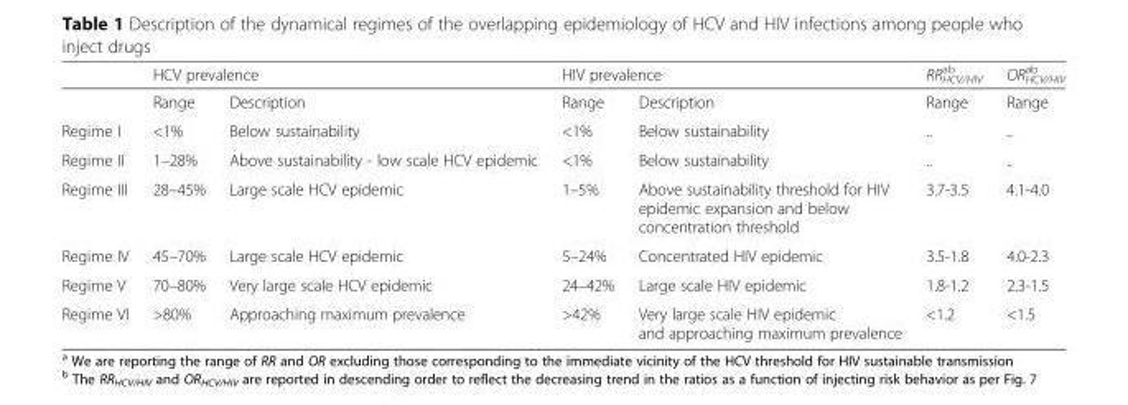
<table><thead><tr><td rowspan="2"></td><td colspan="2">HCV prevalence</td><td colspan="2">HIV prevalence</td><td rowspan="2">RR<sub>HCV/HIV</sub> <sup>ab</sup> Range</td><td rowspan="2">OR<sub>HCV/HIV</sub> <sup>ab</sup> Range</td></tr><tr><td>Range</td><td>Description</td><td>Range</td><td>Description</td></tr></thead><tbody><tr><td>Regime I</td><td>&lt;1%</td><td>Below sustainability</td><td>&lt;1%</td><td>Below sustainability</td><td>..</td><td>..</td></tr><tr><td>Regime II</td><td>1–28%</td><td>Above sustainability - low scale HCV epidemic</td><td>&lt;1%</td><td>Below sustainability</td><td>..</td><td>..</td></tr><tr><td>Regime III</td><td>28–45%</td><td>Large scale HCV epidemic</td><td>1–5%</td><td>Above sustainability threshold for HIV epidemic expansion and below concentration threshold</td><td>3.7-3.5</td><td>4.1-4.0</td></tr><tr><td>Regime IV</td><td>45–70%</td><td>Large scale HCV epidemic</td><td>5–24%</td><td>Concentrated HIV epidemic</td><td>3.5-1.8</td><td>4.0-2.3</td></tr><tr><td>Regime V</td><td>70–80%</td><td>Very large scale HCV epidemic</td><td>24–42%</td><td>Large scale HIV epidemic</td><td>1.8-1.2</td><td>2.3-1.5</td></tr><tr><td>Regime VI</td><td>&gt;80%</td><td>Approaching maximum prevalence</td><td>&gt;42%</td><td>Very large scale HIV epidemic and approaching maximum prevalence</td><td>&lt;1.2</td><td>&lt;1.5</td></tr></tbody></table>